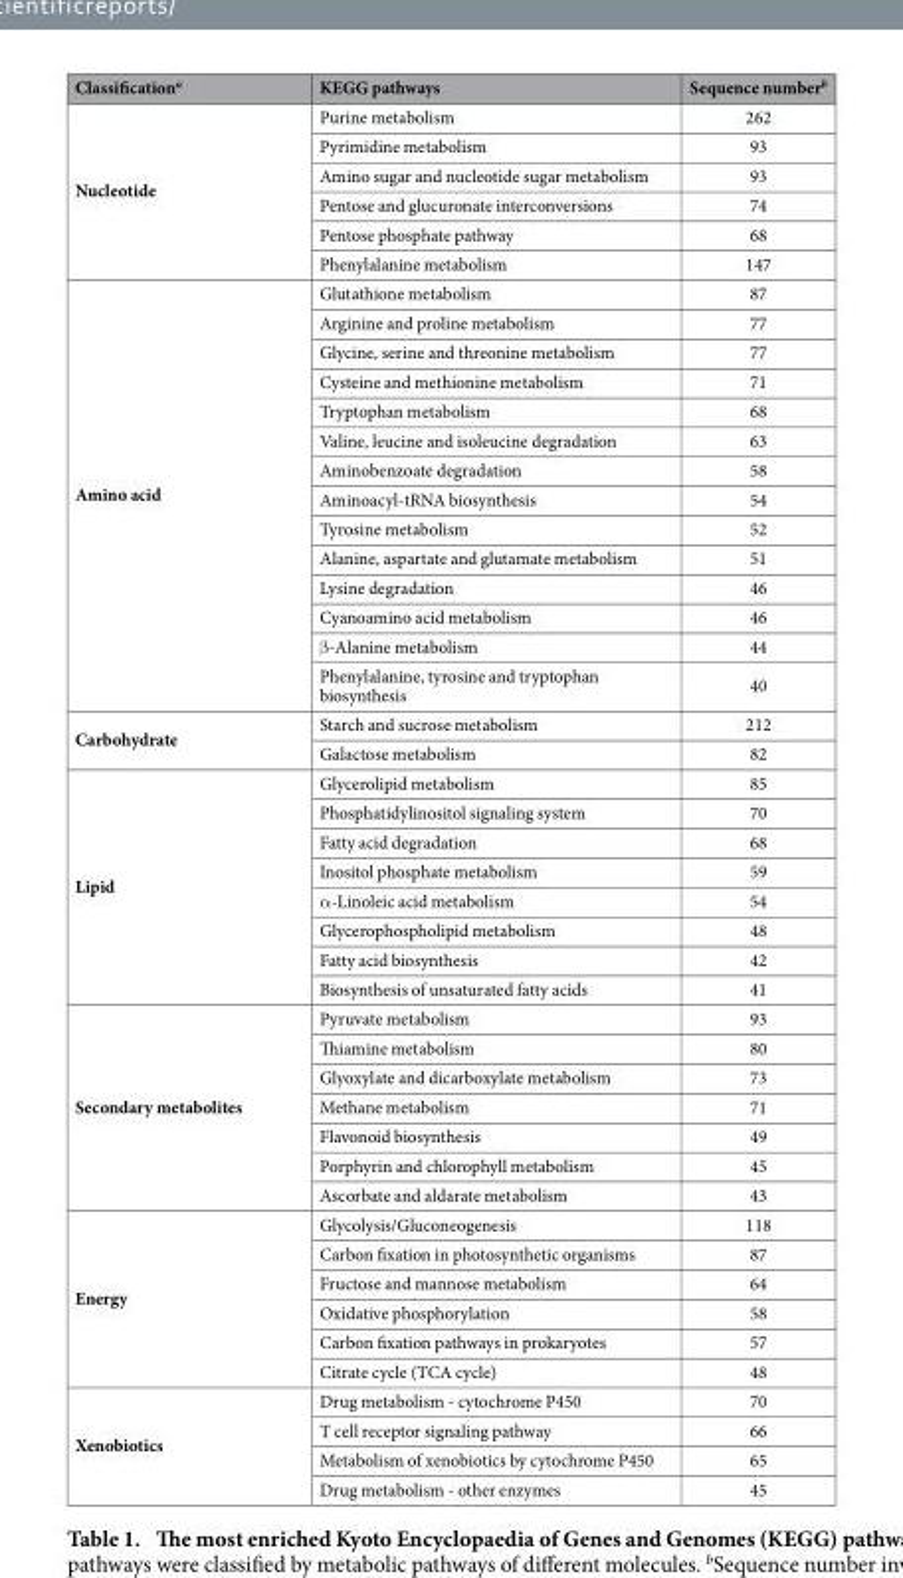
<table><thead><tr><td>Classification<sup>a</sup></td><td>KEGG pathways</td><td>Sequence number<sup>b</sup></td></tr></thead><tbody><tr><td rowspan="6">Nucleotide</td><td>Purine metabolism</td><td>262</td></tr><tr><td>Pyrimidine metabolism</td><td>93</td></tr><tr><td>Amino sugar and nucleotide sugar metabolism</td><td>93</td></tr><tr><td>Pentose and glucuronate interconversions</td><td>74</td></tr><tr><td>Pentose phosphate pathway</td><td>68</td></tr><tr><td>Phenylalanine metabolism</td><td>147</td></tr><tr><td rowspan="14">Amino acid</td><td>Glutathione metabolism</td><td>87</td></tr><tr><td>Arginine and proline metabolism</td><td>77</td></tr><tr><td>Glycine, serine and threonine metabolism</td><td>77</td></tr><tr><td>Cysteine and methionine metabolism</td><td>71</td></tr><tr><td>Tryptophan metabolism</td><td>68</td></tr><tr><td>Valine, leucine and isoleucine degradation</td><td>63</td></tr><tr><td>Aminobenzoate degradation</td><td>58</td></tr><tr><td>Aminoacyl-tRNA biosynthesis</td><td>54</td></tr><tr><td>Tyrosine metabolism</td><td>52</td></tr><tr><td>Alanine, aspartate and glutamate metabolism</td><td>51</td></tr><tr><td>Lysine degradation</td><td>46</td></tr><tr><td>Cyanoamino acid metabolism</td><td>46</td></tr><tr><td>β-Alanine metabolism</td><td>44</td></tr><tr><td>Phenylalanine, tyrosine and tryptophan biosynthesis</td><td>40</td></tr><tr><td rowspan="2">Carbohydrate</td><td>Starch and sucrose metabolism</td><td>212</td></tr><tr><td>Galactose metabolism</td><td>82</td></tr><tr><td rowspan="8">Lipid</td><td>Glycerolipid metabolism</td><td>85</td></tr><tr><td>Phosphatidylinositol signaling system</td><td>70</td></tr><tr><td>Fatty acid degradation</td><td>68</td></tr><tr><td>Inositol phosphate metabolism</td><td>59</td></tr><tr><td>α-Linoleic acid metabolism</td><td>54</td></tr><tr><td>Glycerophospholipid metabolism</td><td>48</td></tr><tr><td>Fatty acid biosynthesis</td><td>42</td></tr><tr><td>Biosynthesis of unsaturated fatty acids</td><td>41</td></tr><tr><td rowspan="7">Secondary metabolites</td><td>Pyruvate metabolism</td><td>93</td></tr><tr><td>Thiamine metabolism</td><td>80</td></tr><tr><td>Glyoxylate and dicarboxylate metabolism</td><td>73</td></tr><tr><td>Methane metabolism</td><td>71</td></tr><tr><td>Flavonoid biosynthesis</td><td>49</td></tr><tr><td>Porphyrin and chlorophyll metabolism</td><td>45</td></tr><tr><td>Ascorbate and aldarate metabolism</td><td>43</td></tr><tr><td rowspan="6">Energy</td><td>Glycolysis/Gluconeogenesis</td><td>118</td></tr><tr><td>Carbon fixation in photosynthetic organisms</td><td>87</td></tr><tr><td>Fructose and mannose metabolism</td><td>64</td></tr><tr><td>Oxidative phosphorylation</td><td>58</td></tr><tr><td>Carbon fixation pathways in prokaryotes</td><td>57</td></tr><tr><td>Citrate cycle (TCA cycle)</td><td>48</td></tr><tr><td rowspan="4">Xenobiotics</td><td>Drug metabolism - cytochrome P450</td><td>70</td></tr><tr><td>T cell receptor signaling pathway</td><td>66</td></tr><tr><td>Metabolism of xenobiotics by cytochrome P450</td><td>65</td></tr><tr><td>Drug metabolism - other enzymes</td><td>45</td></tr></tbody></table>